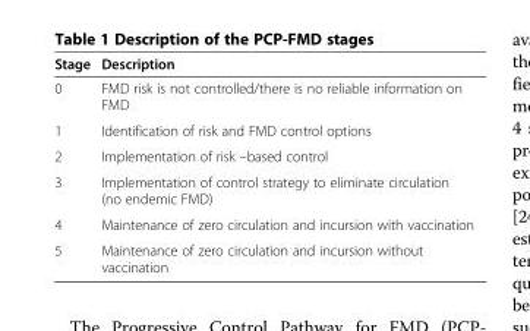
<table><thead><tr><td>Stage</td><td>Description</td></tr></thead><tbody><tr><td>0</td><td>FMD risk is not controlled/there is no reliable information on FMD</td></tr><tr><td>1</td><td>Identification of risk and FMD control options</td></tr><tr><td>2</td><td>Implementation of risk –based control</td></tr><tr><td>3</td><td>Implementation of control strategy to eliminate circulation (no endemic FMD)</td></tr><tr><td>4</td><td>Maintenance of zero circulation and incursion with vaccination</td></tr><tr><td>5</td><td>Maintenance of zero circulation and incursion without vaccination</td></tr></tbody></table>